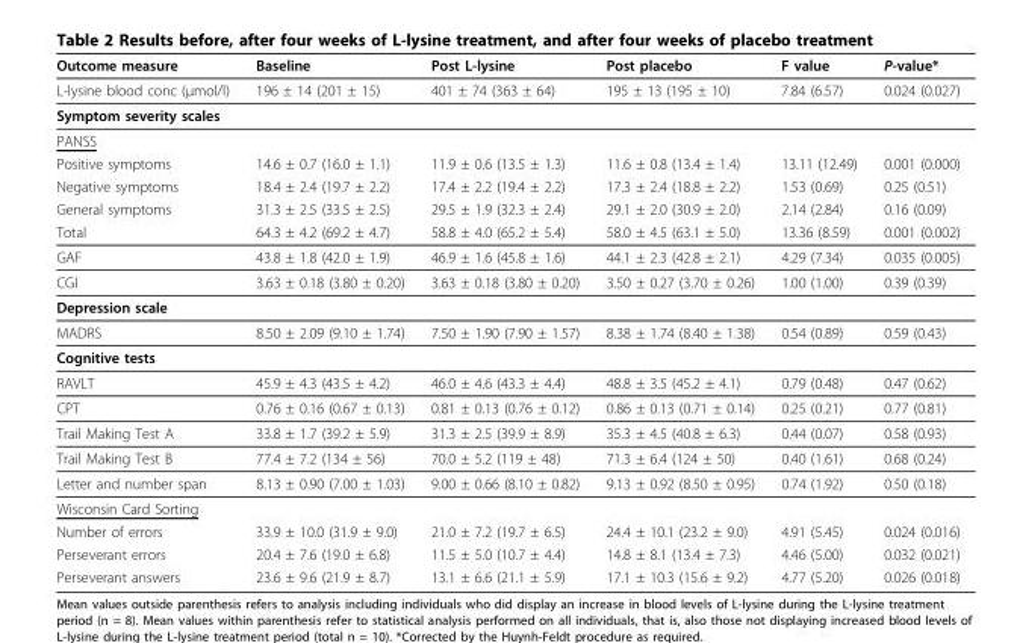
<table><thead><tr><td>Outcome measure</td><td>Baseline</td><td>Post L-lysine</td><td>Post placebo</td><td>F value</td><td>P-value*</td></tr></thead><tbody><tr><td>L-lysine blood conc (μmol/l)</td><td>196 ± 14 (201 ± 15)</td><td>401 ± 74 (363 ± 64)</td><td>195 ± 13 (195 ± 10)</td><td>7.84 (6.57)</td><td>0.024 (0.027)</td></tr><tr><td colspan="6">Symptom severity scales</td></tr><tr><td colspan="6">PANSS</td></tr><tr><td>Positive symptoms</td><td>14.6 ± 0.7 (16.0 ± 1.1)</td><td>11.9 ± 0.6 (13.5 ± 1.3)</td><td>11.6 ± 0.8 (13.4 ± 1.4)</td><td>13.11 (12.49)</td><td>0.001 (0.000)</td></tr><tr><td>Negative symptoms</td><td>18.4 ± 2.4 (19.7 ± 2.2)</td><td>17.4 ± 2.2 (19.4 ± 2.2)</td><td>17.3 ± 2.4 (18.8 ± 2.2)</td><td>1.53 (0.69)</td><td>0.25 (0.51)</td></tr><tr><td>General symptoms</td><td>31.3 ± 2.5 (33.5 ± 2.5)</td><td>29.5 ± 1.9 (32.3 ± 2.4)</td><td>29.1 ± 2.0 (30.9 ± 2.0)</td><td>2.14 (2.84)</td><td>0.16 (0.09)</td></tr><tr><td>Total</td><td>64.3 ± 4.2 (69.2 ± 4.7)</td><td>58.8 ± 4.0 (65.2 ± 5.4)</td><td>58.0 ± 4.5 (63.1 ± 5.0)</td><td>13.36 (8.59)</td><td>0.001 (0.002)</td></tr><tr><td>GAF</td><td>43.8 ± 1.8 (42.0 ± 1.9)</td><td>46.9 ± 1.6 (45.8 ± 1.6)</td><td>44.1 ± 2.3 (42.8 ± 2.1)</td><td>4.29 (7.34)</td><td>0.035 (0.005)</td></tr><tr><td>CGI</td><td>3.63 ± 0.18 (3.80 ± 0.20)</td><td>3.63 ± 0.18 (3.80 ± 0.20)</td><td>3.50 ± 0.27 (3.70 ± 0.26)</td><td>1.00 (1.00)</td><td>0.39 (0.39)</td></tr><tr><td colspan="6">Depression scale</td></tr><tr><td>MADRS</td><td>8.50 ± 2.09 (9.10 ± 1.74)</td><td>7.50 ± 1.90 (7.90 ± 1.57)</td><td>8.38 ± 1.74 (8.40 ± 1.38)</td><td>0.54 (0.89)</td><td>0.59 (0.43)</td></tr><tr><td colspan="6">Cognitive tests</td></tr><tr><td>RAVLT</td><td>45.9 ± 4.3 (43.5 ± 4.2)</td><td>46.0 ± 4.6 (43.3 ± 4.4)</td><td>48.8 ± 3.5 (45.2 ± 4.1)</td><td>0.79 (0.48)</td><td>0.47 (0.62)</td></tr><tr><td>CPT</td><td>0.76 ± 0.16 (0.67 ± 0.13)</td><td>0.81 ± 0.13 (0.76 ± 0.12)</td><td>0.86 ± 0.13 (0.71 ± 0.14)</td><td>0.25 (0.21)</td><td>0.77 (0.81)</td></tr><tr><td>Trail Making Test A</td><td>33.8 ± 1.7 (39.2 ± 5.9)</td><td>31.3 ± 2.5 (39.9 ± 8.9)</td><td>35.3 ± 4.5 (40.8 ± 6.3)</td><td>0.44 (0.07)</td><td>0.58 (0.93)</td></tr><tr><td>Trail Making Test B</td><td>77.4 ± 7.2 (134 ± 56)</td><td>70.0 ± 5.2 (119 ± 48)</td><td>71.3 ± 6.4 (124 ± 50)</td><td>0.40 (1.61)</td><td>0.68 (0.24)</td></tr><tr><td>Letter and number span</td><td>8.13 ± 0.90 (7.00 ± 1.03)</td><td>9.00 ± 0.66 (8.10 ± 0.82)</td><td>9.13 ± 0.92 (8.50 ± 0.95)</td><td>0.74 (1.92)</td><td>0.50 (0.18)</td></tr><tr><td colspan="6">Wisconsin Card Sorting</td></tr><tr><td>Number of errors</td><td>33.9 ± 10.0 (31.9 ± 9.0)</td><td>21.0 ± 7.2 (19.7 ± 6.5)</td><td>24.4 ± 10.1 (23.2 ± 9.0)</td><td>4.91 (5.45)</td><td>0.024 (0.016)</td></tr><tr><td>Perseverant errors</td><td>20.4 ± 7.6 (19.0 ± 6.8)</td><td>11.5 ± 5.0 (10.7 ± 4.4)</td><td>14.8 ± 8.1 (13.4 ± 7.3)</td><td>4.46 (5.00)</td><td>0.032 (0.021)</td></tr><tr><td>Perseverant answers</td><td>23.6 ± 9.6 (21.9 ± 8.7)</td><td>13.1 ± 6.6 (21.1 ± 5.9)</td><td>17.1 ± 10.3 (15.6 ± 9.2)</td><td>4.77 (5.20)</td><td>0.026 (0.018)</td></tr></tbody></table>